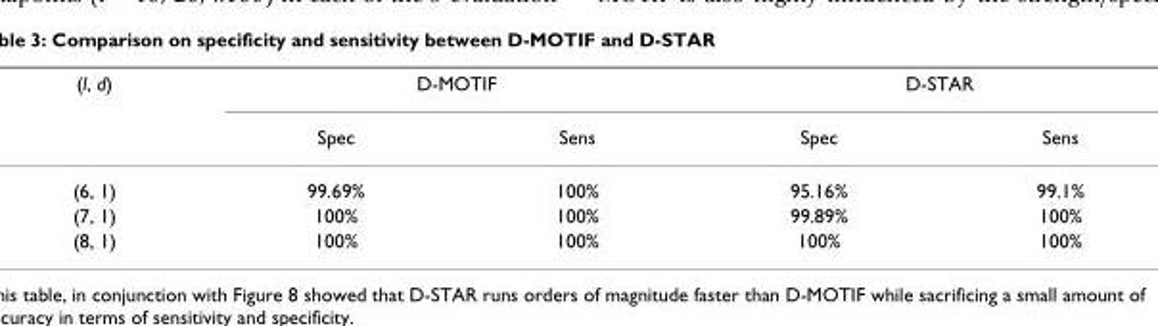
<table><thead><tr><td rowspan="2">(l, d)</td><td colspan="2">D-MOTIF</td><td colspan="2">D-STAR</td></tr><tr><td>Spec</td><td>Sens</td><td>Spec</td><td>Sens</td></tr></thead><tbody><tr><td>(6, 1)</td><td>99.69%</td><td>100%</td><td>95.16%</td><td>99.1%</td></tr><tr><td>(7, 1)</td><td>100%</td><td>100%</td><td>99.89%</td><td>100%</td></tr><tr><td>(8, 1)</td><td>100%</td><td>100%</td><td>100%</td><td>100%</td></tr></tbody></table>